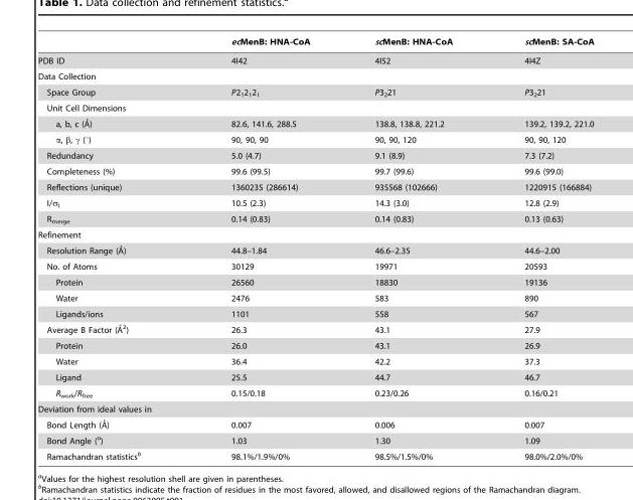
<table><thead><tr><td></td><td>ecMenB: HNA-CoA</td><td>scMenB: HNA-CoA</td><td>scMenB: SA-CoA</td></tr></thead><tbody><tr><td>PDB ID</td><td>4I42</td><td>4I52</td><td>4I4Z</td></tr><tr><td colspan="4">Data Collection</td></tr><tr><td>Space Group</td><td>P2<sub>1</sub>2<sub>1</sub>2<sub>1</sub></td><td>P3<sub>2</sub>21</td><td>P3<sub>2</sub>21</td></tr><tr><td colspan="4">Unit Cell Dimensions</td></tr><tr><td>a, b, c (A˚)</td><td>82.6, 141.6, 288.5</td><td>138.8, 138.8, 221.2</td><td>139.2, 139.2, 221.0</td></tr><tr><td>α, β, γ (°)</td><td>90, 90, 90</td><td>90, 90, 120</td><td>90, 90, 120</td></tr><tr><td>Redundancy</td><td>5.0 (4.7)</td><td>9.1 (8.9)</td><td>7.3 (7.2)</td></tr><tr><td>Completeness (%)</td><td>99.6 (99.5)</td><td>99.7 (99.6)</td><td>99.6 (99.0)</td></tr><tr><td>Reflections (unique)</td><td>1360235 (286614)</td><td>935568 (102666)</td><td>1220915 (166884)</td></tr><tr><td>I/σ<sub>I</sub></td><td>10.5 (2.3)</td><td>14.3 (3.0)</td><td>12.8 (2.9)</td></tr><tr><td>R<sub>merge</sub></td><td>0.14 (0.83)</td><td>0.14 (0.83)</td><td>0.13 (0.63)</td></tr><tr><td colspan="4">Refinement</td></tr><tr><td>Resolution Range (A˚)</td><td>44.8–1.84</td><td>46.6–2.35</td><td>44.6–2.00</td></tr><tr><td>No. of Atoms</td><td>30129</td><td>19971</td><td>20593</td></tr><tr><td>Protein</td><td>26560</td><td>18830</td><td>19136</td></tr><tr><td>Water</td><td>2476</td><td>583</td><td>890</td></tr><tr><td>Ligands/ions</td><td>1101</td><td>558</td><td>567</td></tr><tr><td>Average B Factor (A˚ 2)</td><td>26.3</td><td>43.1</td><td>27.9</td></tr><tr><td>Protein</td><td>26.0</td><td>43.1</td><td>26.9</td></tr><tr><td>Water</td><td>36.4</td><td>42.2</td><td>37.3</td></tr><tr><td>Ligand</td><td>25.5</td><td>44.7</td><td>46.7</td></tr><tr><td>R<sub>work</sub>/R<sub>free</sub></td><td>0.15/0.18</td><td>0.23/0.26</td><td>0.16/0.21</td></tr><tr><td colspan="4">Deviation from ideal values in</td></tr><tr><td>Bond Length (A˚)</td><td>0.007</td><td>0.006</td><td>0.007</td></tr><tr><td>Bond Angle (<sup>o</sup>)</td><td>1.03</td><td>1.30</td><td>1.09</td></tr><tr><td>Ramachandran statistics<sup>b</sup></td><td>98.1%/1.9%/0%</td><td>98.5%/1.5%/0%</td><td>98.0%/2.0%/0%</td></tr></tbody></table>